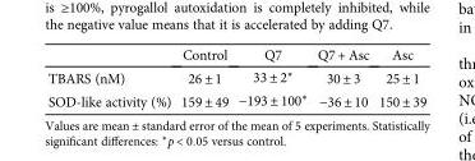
<table><thead><tr><td></td><td>Control</td><td>Q7</td><td>Q7 + Asc</td><td>Asc</td></tr></thead><tbody><tr><td>TBARS (nM)</td><td>26 ± 1</td><td>33 ± 2∗</td><td>30 ± 3</td><td>25 ± 1</td></tr><tr><td>SOD-like activity (%)</td><td>159 ± 49</td><td>−193 ± 100∗</td><td>−36 ± 10</td><td>150 ± 39</td></tr></tbody></table>